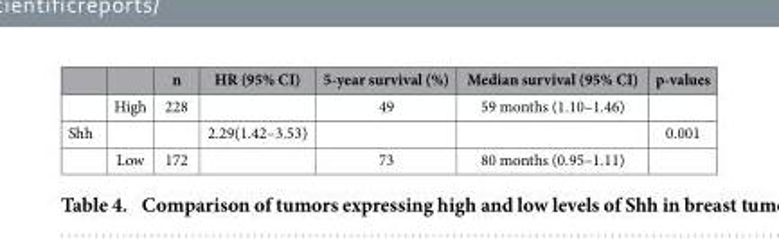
<table><thead><tr><td></td><td></td><td>n</td><td>HR (95% CI)</td><td>5-year survival (%)</td><td>Median survival (95% CI)</td><td>p-values</td></tr></thead><tbody><tr><td></td><td>High</td><td>228</td><td></td><td>49</td><td>59 months (1.10–1.46)</td><td></td></tr><tr><td rowspan="2">Shh</td><td></td><td></td><td>2.29(1.42–3.53)</td><td></td><td></td><td>0.001</td></tr><tr><td>Low</td><td>172</td><td></td><td>73</td><td>80 months (0.95–1.11)</td><td></td></tr></tbody></table>